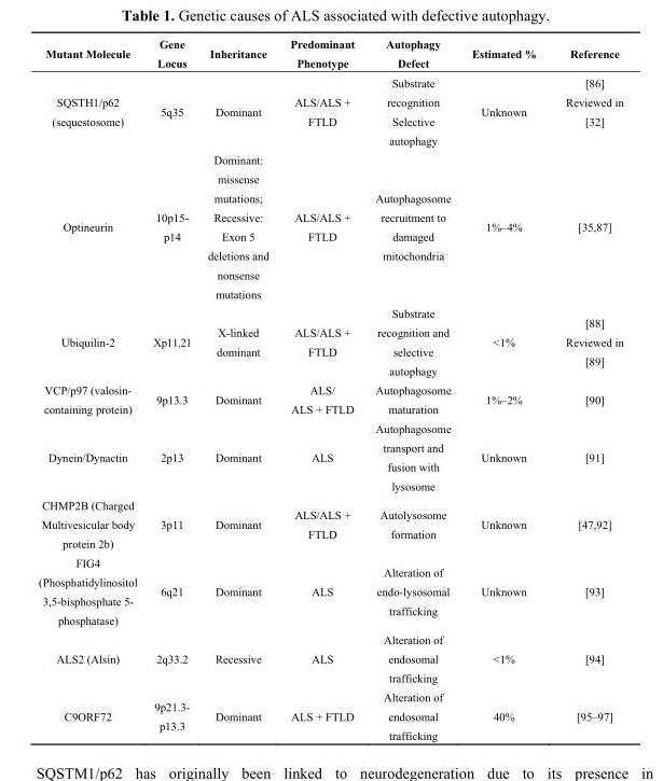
<table><thead><tr><td>Mutant Molecule</td><td>Gene Locus</td><td>Inheritance</td><td>Predominant Phenotype</td><td>Autophagy Defect</td><td>Estimated %</td><td>Reference</td></tr></thead><tbody><tr><td>SQSTH1/p62 (sequestosome)</td><td>5q35</td><td>Dominant</td><td>ALS/ALS + FTLD</td><td>Substrate recognition Selective autophagy</td><td>Unknown</td><td>[86] Reviewed in [32]</td></tr><tr><td>Optineurin</td><td>10p15- p14</td><td>Dominant: missense mutations; Recessive: Exon 5 deletions and nonsense mutations</td><td>ALS/ALS + FTLD</td><td>Autophagosome recruitment to damaged mitochondria</td><td>1%–4%</td><td>[35,87]</td></tr><tr><td>Ubiquilin-2</td><td>Xp11.21</td><td>X-linked dominant</td><td>ALS/ALS + FTLD</td><td>Substrate recognition and selective autophagy</td><td>&lt;1%</td><td>[88] Reviewed in [89]</td></tr><tr><td>VCP/p97 (valosin- containing protein)</td><td>9p13.3</td><td>Dominant</td><td>ALS/ ALS + FTLD</td><td>Autophagosome maturation</td><td>1%–2%</td><td>[90]</td></tr><tr><td>Dynein/Dynactin</td><td>2p13</td><td>Dominant</td><td>ALS</td><td>Autophagosome transport and fusion with lysosome</td><td>Unknown</td><td>[91]</td></tr><tr><td>CHMP2B (Charged Multivesicular body protein 2b)</td><td>3p11</td><td>Dominant</td><td>ALS/ALS + FTLD</td><td>Autolysosome formation</td><td>Unknown</td><td>[47,92]</td></tr><tr><td>FIG4 (Phosphatidylinositol 3,5-bisphosphate 5- phosphatase)</td><td>6q21</td><td>Dominant</td><td>ALS</td><td>Alteration of endo-lysosomal trafficking</td><td>Unknown</td><td>[93]</td></tr><tr><td>ALS2 (Alsin)</td><td>2q33.2</td><td>Recessive</td><td>ALS</td><td>Alteration of endosomal trafficking</td><td>&lt;1%</td><td>[94]</td></tr><tr><td>C9ORF72</td><td>9p21.3- p13.3</td><td>Dominant</td><td>ALS + FTLD</td><td>Alteration of endosomal trafficking</td><td>40%</td><td>[95–97]</td></tr></tbody></table>